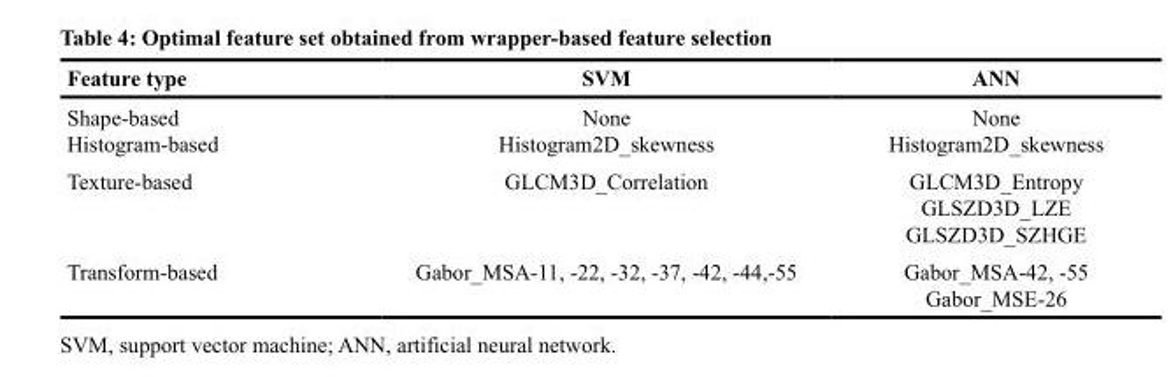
<table><thead><tr><td>Feature type</td><td>SVM</td><td>ANN</td></tr></thead><tbody><tr><td>Shape-based Histogram-based</td><td>None Histogram2D_skewness</td><td>None Histogram2D_skewness</td></tr><tr><td>Texture-based</td><td>GLCM3D_Correlation</td><td>GLCM3D_Entropy GLSZD3D_LZE GLSZD3D_SZHGE</td></tr><tr><td>Transform-based</td><td>Gabor_MSA-11, -22, -32, -37, -42, -44,-55</td><td>Gabor_MSA-42, -55 Gabor_MSE-26</td></tr></tbody></table>